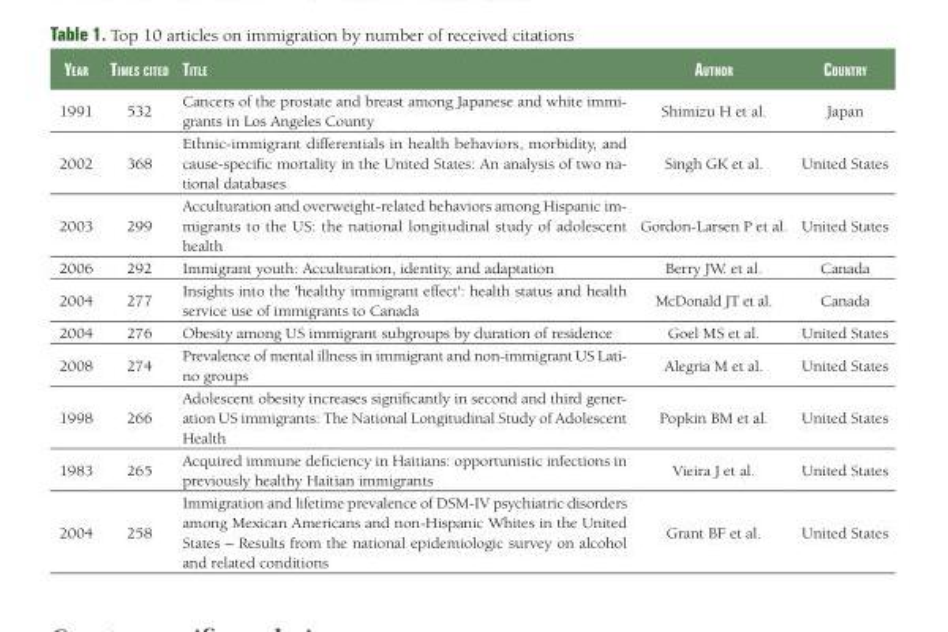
<table><thead><tr><td>Year</td><td>Times ciTed</td><td>TiTle</td><td>auThor</td><td>counTrY</td></tr></thead><tbody><tr><td>1991</td><td>532</td><td>Cancers of the prostate and breast among Japanese and white immi- grants in Los Angeles County</td><td>Shimizu H et al.</td><td>Japan</td></tr><tr><td>2002</td><td>368</td><td>Ethnic-immigrant differentials in health behaviors, morbidity, and cause-specific mortality in the United States: An analysis of two na- tional databases</td><td>Singh GK et al.</td><td>United States</td></tr><tr><td>2003</td><td>299</td><td>Acculturation and overweight-related behaviors among Hispanic im- migrants to the US: the national longitudinal study of adolescent health</td><td>Gordon-Larsen P et al.</td><td>United States</td></tr><tr><td>2006</td><td>292</td><td>Immigrant youth: Acculturation, identity, and adaptation</td><td>Berry JW. et al.</td><td>Canada</td></tr><tr><td>2004</td><td>277</td><td>Insights into the &#x27;healthy immigrant effect&#x27;: health status and health service use of immigrants to Canada</td><td>McDonald JT et al.</td><td>Canada</td></tr><tr><td>2004</td><td>276</td><td>Obesity among US immigrant subgroups by duration of residence</td><td>Goel MS et al.</td><td>United States</td></tr><tr><td>2008</td><td>274</td><td>Prevalence of mental illness in immigrant and non-immigrant US Lati- no groups</td><td>Alegria M et al.</td><td>United States</td></tr><tr><td>1998</td><td>266</td><td>Adolescent obesity increases significantly in second and third gener- ation US immigrants: The National Longitudinal Study of Adolescent Health</td><td>Popkin BM et al.</td><td>United States</td></tr><tr><td>1983</td><td>265</td><td>Acquired immune deficiency in Haitians: opportunistic infections in previously healthy Haitian immigrants</td><td>Vieira J et al.</td><td>United States</td></tr><tr><td>2004</td><td>258</td><td>Immigration and lifetime prevalence of DSM-IV psychiatric disorders among Mexican Americans and non-Hispanic Whites in the United States – Results from the national epidemiologic survey on alcohol and related conditions</td><td>Grant BF et al.</td><td>United States</td></tr></tbody></table>